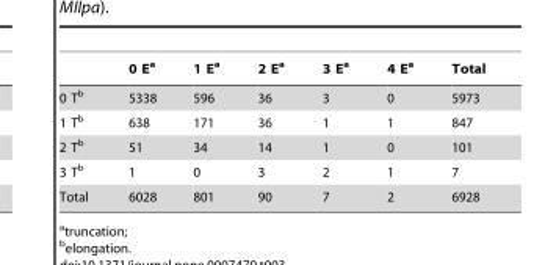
<table><thead><tr><td></td><td>0 E<sup>a</sup></td><td>1 E<sup>a</sup></td><td>2 E<sup>a</sup></td><td>3 E<sup>a</sup></td><td>4 E<sup>a</sup></td><td>Total</td></tr></thead><tbody><tr><td>0 T<sup>b</sup></td><td>5338</td><td>596</td><td>36</td><td>3</td><td>0</td><td>5973</td></tr><tr><td>1 T<sup>b</sup></td><td>638</td><td>171</td><td>36</td><td>1</td><td>1</td><td>847</td></tr><tr><td>2 T<sup>b</sup></td><td>51</td><td>34</td><td>14</td><td>1</td><td>0</td><td>101</td></tr><tr><td>3 T<sup>b</sup></td><td>1</td><td>0</td><td>3</td><td>2</td><td>1</td><td>7</td></tr><tr><td>Total</td><td>6028</td><td>801</td><td>90</td><td>7</td><td>2</td><td>6928</td></tr></tbody></table>